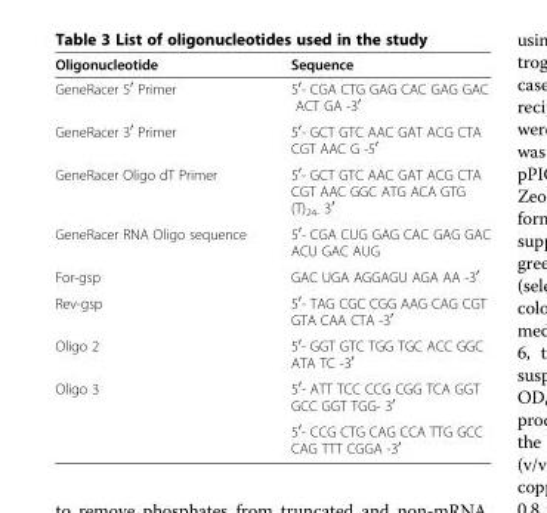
<table><thead><tr><td>Oligonucleotide</td><td>Sequence</td></tr></thead><tbody><tr><td>GeneRacer 5<sup>′</sup> Primer</td><td>5<sup>′</sup>- CGA CTG GAG CAC GAG GAC ACT GA -3<sup>′</sup></td></tr><tr><td>GeneRacer 3<sup>′</sup> Primer</td><td>5<sup>′</sup>- GCT GTC AAC GAT ACG CTA CGT AAC G -5<sup>′</sup></td></tr><tr><td>GeneRacer Oligo dT Primer</td><td>5<sup>′</sup>- GCT GTC AAC GAT ACG CTA CGT AAC GGC ATG ACA GTG (T)<sub>24-</sub> 3<sup>′</sup></td></tr><tr><td>GeneRacer RNA Oligo sequence</td><td>5<sup>′</sup>- CGA CUG GAG CAC GAG GAC ACU GAC AUG</td></tr><tr><td>For-gsp</td><td>GAC UGA AGGAGU AGA AA -3<sup>′</sup></td></tr><tr><td>Rev-gsp</td><td>5<sup>′</sup>- TAG CGC CGG AAG CAG CGT GTA CAA CTA -3<sup>′</sup></td></tr><tr><td>Oligo 2</td><td>5<sup>′</sup>- GGT GTC TGG TGC ACC GGC ATA TC -3<sup>′</sup></td></tr><tr><td rowspan="2">Oligo 3</td><td>5<sup>′</sup>- ATT TCC CCG CGG TCA GGT GCC GGT TGG- 3<sup>′</sup></td></tr><tr><td>5<sup>′</sup>- CCG CTG CAG CCA TTG GCC CAG TTT CGGA -3<sup>′</sup></td></tr></tbody></table>